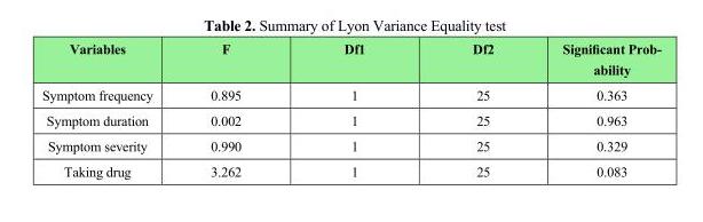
<table><thead><tr><td>Variables</td><td>F</td><td>Df1</td><td>Df2</td><td>Significant Prob- ability</td></tr></thead><tbody><tr><td>Symptom frequency</td><td>0.895</td><td>1</td><td>25</td><td>0.363</td></tr><tr><td>Symptom duration</td><td>0.002</td><td>1</td><td>25</td><td>0.963</td></tr><tr><td>Symptom severity</td><td>0.990</td><td>1</td><td>25</td><td>0.329</td></tr><tr><td>Taking drug</td><td>3.262</td><td>1</td><td>25</td><td>0.083</td></tr></tbody></table>